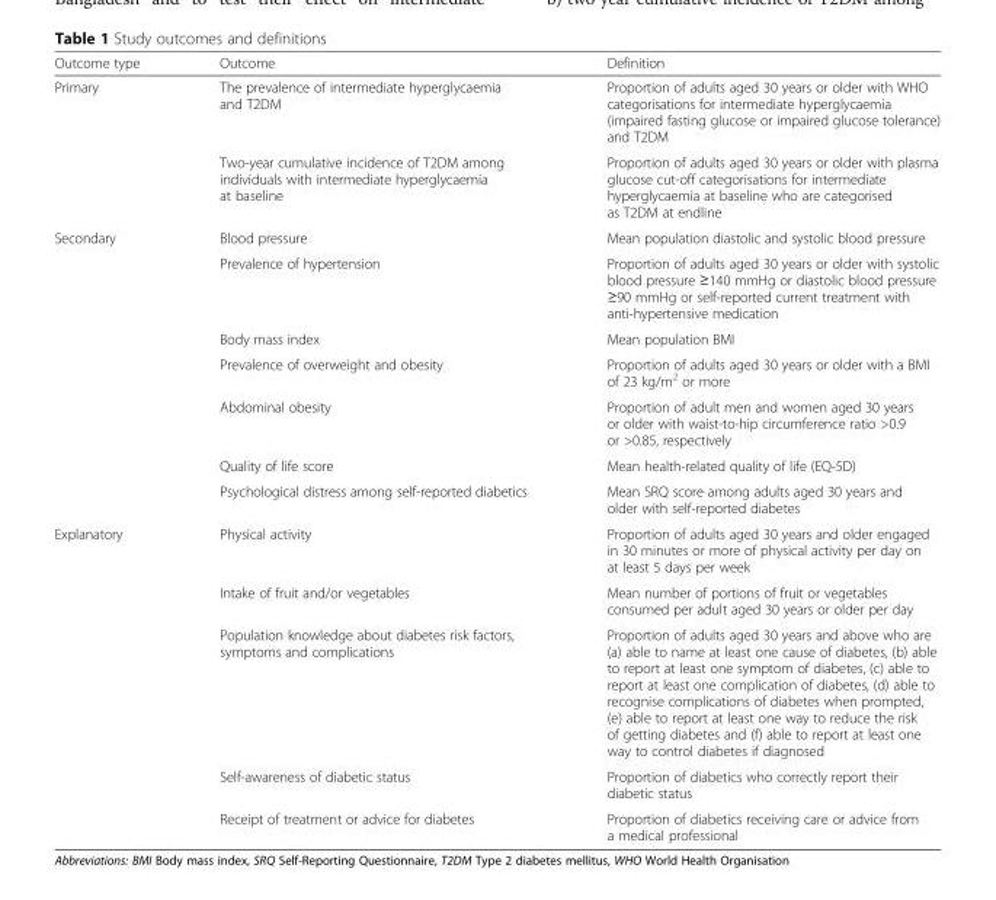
<table><thead><tr><td>Outcome type</td><td>Outcome</td><td>Definition</td></tr></thead><tbody><tr><td rowspan="2">Primary</td><td>The prevalence of intermediate hyperglycaemia and T2DM</td><td>Proportion of adults aged 30 years or older with WHO categorisations for intermediate hyperglycaemia (impaired fasting glucose or impaired glucose tolerance) and T2DM</td></tr><tr><td>Two-year cumulative incidence of T2DM among individuals with intermediate hyperglycaemia at baseline</td><td>Proportion of adults aged 30 years or older with plasma glucose cut-off categorisations for intermediate hyperglycaemia at baseline who are categorised as T2DM at endline</td></tr><tr><td rowspan="7">Secondary</td><td>Blood pressure</td><td>Mean population diastolic and systolic blood pressure</td></tr><tr><td>Prevalence of hypertension</td><td>Proportion of adults aged 30 years or older with systolic blood pressure ≥140 mmHg or diastolic blood pressure ≥90 mmHg or self-reported current treatment with anti-hypertensive medication</td></tr><tr><td>Body mass index</td><td>Mean population BMI</td></tr><tr><td>Prevalence of overweight and obesity</td><td>Proportion of adults aged 30 years or older with a BMI of 23 kg/m<sup>2</sup> or more</td></tr><tr><td>Abdominal obesity</td><td>Proportion of adult men and women aged 30 years or older with waist-to-hip circumference ratio &gt;0.9 or &gt;0.85, respectively</td></tr><tr><td>Quality of life score</td><td>Mean health-related quality of life (EQ-5D)</td></tr><tr><td>Psychological distress among self-reported diabetics</td><td>Mean SRQ score among adults aged 30 years and older with self-reported diabetes</td></tr><tr><td rowspan="5">Explanatory</td><td>Physical activity</td><td>Proportion of adults aged 30 years and older engaged in 30 minutes or more of physical activity per day on at least 5 days per week</td></tr><tr><td>Intake of fruit and/or vegetables</td><td>Mean number of portions of fruit or vegetables consumed per adult aged 30 years or older per day</td></tr><tr><td>Population knowledge about diabetes risk factors, symptoms and complications</td><td>Proportion of adults aged 30 years and above who are (a) able to name at least one cause of diabetes, (b) able to report at least one symptom of diabetes, (c) able to report at least one complication of diabetes, (d) able to recognise complications of diabetes when prompted, (e) able to report at least one way to reduce the risk of getting diabetes and (f) able to report at least one way to control diabetes if diagnosed</td></tr><tr><td>Self-awareness of diabetic status</td><td>Proportion of diabetics who correctly report their diabetic status</td></tr><tr><td>Receipt of treatment or advice for diabetes</td><td>Proportion of diabetics receiving care or advice from a medical professional</td></tr></tbody></table>